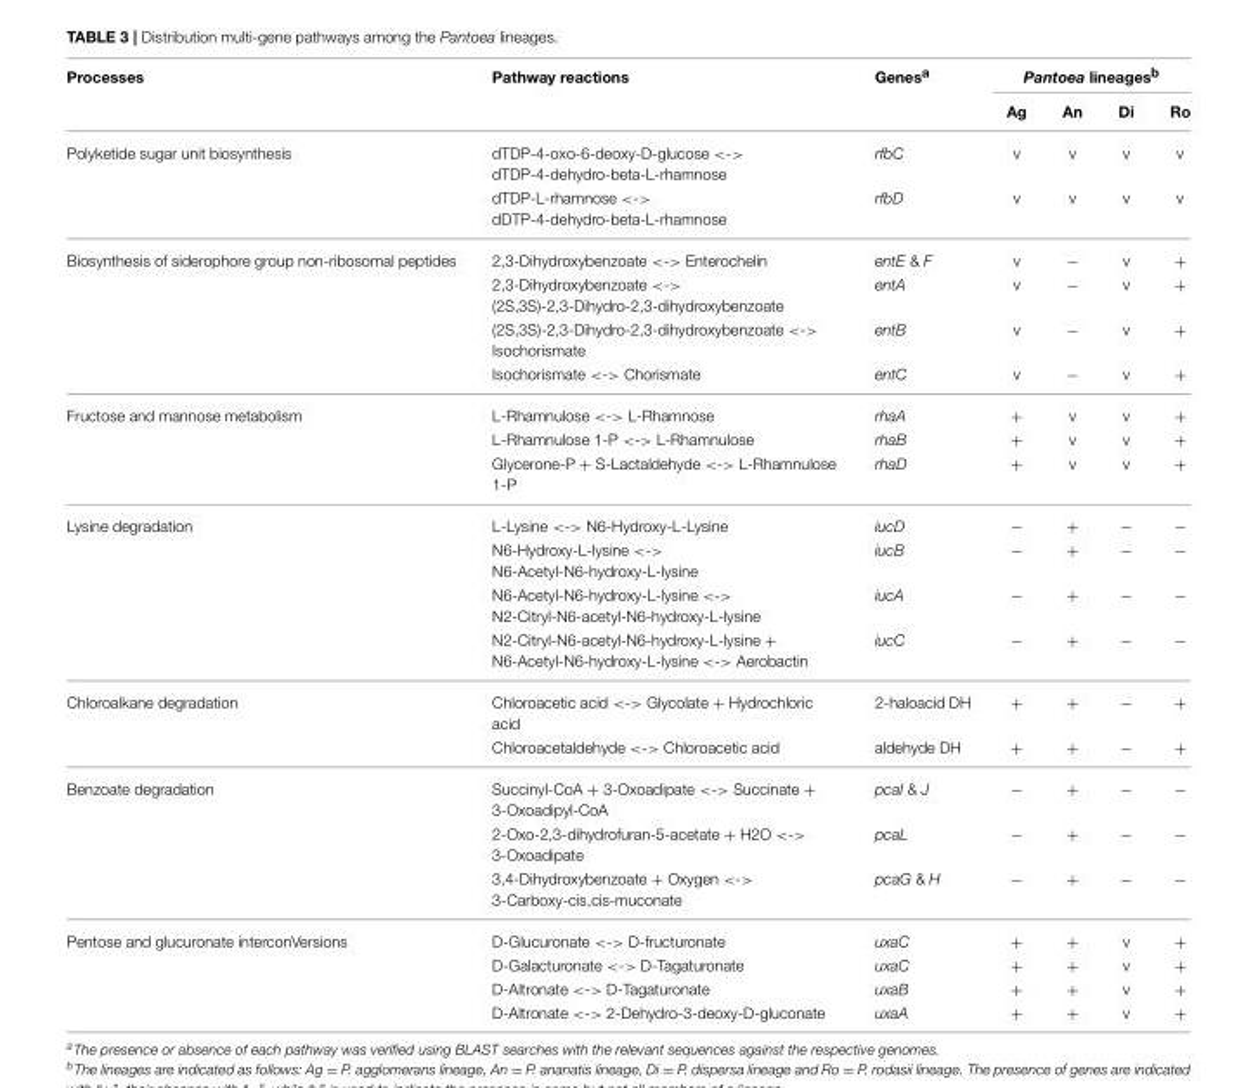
<table><thead><tr><td rowspan="2">Processes</td><td rowspan="2">Pathway reactions</td><td rowspan="2">Genes<sup>a</sup></td><td colspan="4">Pantoea lineages<sup>b</sup></td></tr><tr><td>Ag</td><td>An</td><td>Di</td><td>Ro</td></tr></thead><tbody><tr><td rowspan="2">Polyketide sugar unit biosynthesis</td><td>dTDP-4-oxo-6-deoxy-D-glucose &lt;-&gt; dTDP-4-dehydro-beta-L-rhamnose</td><td>rfbC</td><td>v</td><td>v</td><td>v</td><td>v</td></tr><tr><td>dTDP-L-rhamnose &lt;-&gt; dDTP-4-dehydro-beta-L-rhamnose</td><td>rfbD</td><td>v</td><td>v</td><td>v</td><td>v</td></tr><tr><td rowspan="4">Biosynthesis of siderophore group non-ribosomal peptides</td><td>2,3-Dihydroxybenzoate &lt;-&gt; Enterochelin</td><td>entE &amp; F</td><td>v</td><td>−</td><td>v</td><td>+</td></tr><tr><td>2,3-Dihydroxybenzoate &lt;-&gt; (2S,3S)-2,3-Dihydro-2,3-dihydroxybenzoate</td><td>entA</td><td>v</td><td>−</td><td>v</td><td>+</td></tr><tr><td>(2S,3S)-2,3-Dihydro-2,3-dihydroxybenzoate &lt;-&gt; Isochorismate</td><td>entB</td><td>v</td><td>−</td><td>v</td><td>+</td></tr><tr><td>Isochorismate &lt;-&gt; Chorismate</td><td>entC</td><td>v</td><td>−</td><td>v</td><td>+</td></tr><tr><td rowspan="3">Fructose and mannose metabolism</td><td>L-Rhamnulose &lt;-&gt; L-Rhamnose</td><td>rhaA</td><td>+</td><td>v</td><td>v</td><td>+</td></tr><tr><td>L-Rhamnulose 1-P &lt;-&gt; L-Rhamnulose</td><td>rhaB</td><td>+</td><td>v</td><td>v</td><td>+</td></tr><tr><td>Glycerone-P + S-Lactaldehyde &lt;-&gt; L-Rhamnulose 1-P</td><td>rhaD</td><td>+</td><td>v</td><td>v</td><td>+</td></tr><tr><td rowspan="4">Lysine degradation</td><td>L-Lysine &lt;-&gt; N6-Hydroxy-L-Lysine</td><td>iucD</td><td>−</td><td>+</td><td>−</td><td>−</td></tr><tr><td>N6-Hydroxy-L-lysine &lt;-&gt; N6-Acetyl-N6-hydroxy-L-lysine</td><td>iucB</td><td>−</td><td>+</td><td>−</td><td>−</td></tr><tr><td>N6-Acetyl-N6-hydroxy-L-lysine &lt;-&gt; N2-Citryl-N6-acetyl-N6-hydroxy-L-lysine</td><td>iucA</td><td>−</td><td>+</td><td>−</td><td>−</td></tr><tr><td>N2-Citryl-N6-acetyl-N6-hydroxy-L-lysine + N6-Acetyl-N6-hydroxy-L-lysine &lt;-&gt; Aerobactin</td><td>iucC</td><td>−</td><td>+</td><td>−</td><td>−</td></tr><tr><td rowspan="2">Chloroalkane degradation</td><td>Chloroacetic acid &lt;-&gt; Glycolate + Hydrochloric acid</td><td>2-haloacid DH</td><td>+</td><td>+</td><td>−</td><td>+</td></tr><tr><td>Chloroacetaldehyde &lt;-&gt; Chloroacetic acid</td><td>aldehyde DH</td><td>+</td><td>+</td><td>−</td><td>+</td></tr><tr><td rowspan="3">Benzoate degradation</td><td>Succinyl-CoA + 3-Oxoadipate &lt;-&gt; Succinate + 3-Oxoadipyl-CoA</td><td>pcaI &amp; J</td><td>−</td><td>+</td><td>−</td><td>−</td></tr><tr><td>2-Oxo-2,3-dihydrofuran-5-acetate + H2O &lt;-&gt; 3-Oxoadipate</td><td>pcaL</td><td>−</td><td>+</td><td>−</td><td>−</td></tr><tr><td>3,4-Dihydroxybenzoate + Oxygen &lt;-&gt; 3-Carboxy-cis,cis-muconate</td><td>pcaG &amp; H</td><td>−</td><td>+</td><td>−</td><td>−</td></tr><tr><td rowspan="4">Pentose and glucuronate interconVersions</td><td>D-Glucuronate &lt;-&gt; D-fructuronate</td><td>uxaC</td><td>+</td><td>+</td><td>v</td><td>+</td></tr><tr><td>D-Galacturonate &lt;-&gt; D-Tagaturonate</td><td>uxaC</td><td>+</td><td>+</td><td>v</td><td>+</td></tr><tr><td>D-Altronate &lt;-&gt; D-Tagaturonate</td><td>uxaB</td><td>+</td><td>+</td><td>v</td><td>+</td></tr><tr><td>D-Altronate &lt;-&gt; 2-Dehydro-3-deoxy-D-gluconate</td><td>uxaA</td><td>+</td><td>+</td><td>v</td><td>+</td></tr></tbody></table>